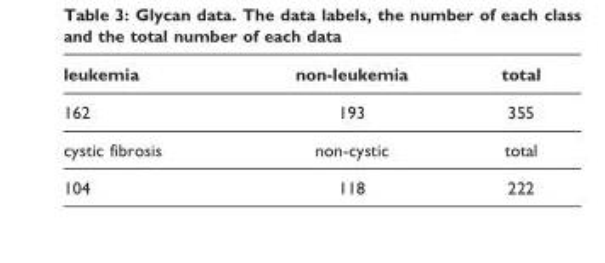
<table><thead><tr><td>leukemia</td><td>non-leukemia</td><td>total</td></tr></thead><tbody><tr><td>162</td><td>193</td><td>355</td></tr><tr><td>cystic fibrosis</td><td>non-cystic</td><td>total</td></tr><tr><td>104</td><td>118</td><td>222</td></tr></tbody></table>